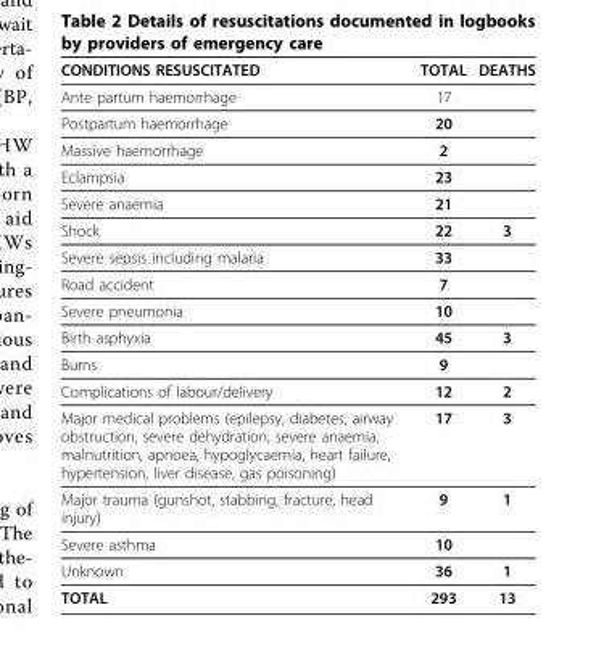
<table><thead><tr><td>CONDITIONS RESUSCITATED</td><td>TOTAL</td><td>DEATHS</td></tr></thead><tbody><tr><td>Ante partum haemorrhage</td><td>17</td><td></td></tr><tr><td>Postpartum haemorrhage</td><td>20</td><td></td></tr><tr><td>Massive haemorrhage</td><td>2</td><td></td></tr><tr><td>Eclampsia</td><td>23</td><td></td></tr><tr><td>Severe anaemia</td><td>21</td><td></td></tr><tr><td>Shock</td><td>22</td><td>3</td></tr><tr><td>Severe sepsis including malaria</td><td>33</td><td></td></tr><tr><td>Road accident</td><td>7</td><td></td></tr><tr><td>Severe pneumonia</td><td>10</td><td></td></tr><tr><td>Birth asphyxia</td><td>45</td><td>3</td></tr><tr><td>Burns</td><td>9</td><td></td></tr><tr><td>Complications of labour/delivery</td><td>12</td><td>2</td></tr><tr><td>Major medical problems (epilepsy, diabetes, airway obstruction, severe dehydration, severe anaemia, malnutrition, apnoea, hypoglycaemia, heart failure, hypertension, liver disease, gas poisoning)</td><td>17</td><td>3</td></tr><tr><td>Major trauma (gunshot, stabbing, fracture, head injury)</td><td>9</td><td>1</td></tr><tr><td>Severe asthma</td><td>10</td><td></td></tr><tr><td>Unknown</td><td>36</td><td>1</td></tr><tr><td>TOTAL</td><td>293</td><td>13</td></tr></tbody></table>